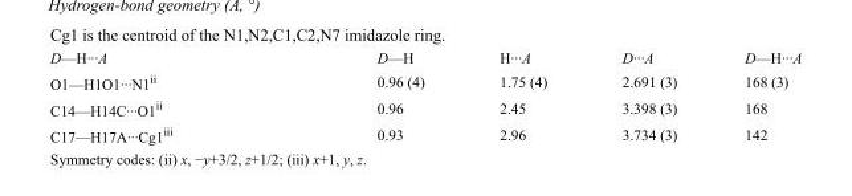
<table><tbody><tr><td>D—H···A</td><td>D—H</td><td>H···A</td><td>D···A</td><td>D—H···A</td></tr><tr><td>O1—H1O1···N1<sup>ii</sup></td><td>0.96 (4)</td><td>1.75 (4)</td><td>2.691 (3)</td><td>168 (3)</td></tr><tr><td>C14—H14C···O1<sup>ii</sup></td><td>0.96</td><td>2.45</td><td>3.398 (3)</td><td>168</td></tr><tr><td>C17—H17A···Cg1<sup>iii</sup></td><td>0.93</td><td>2.96</td><td>3.734 (3)</td><td>142</td></tr></tbody></table>